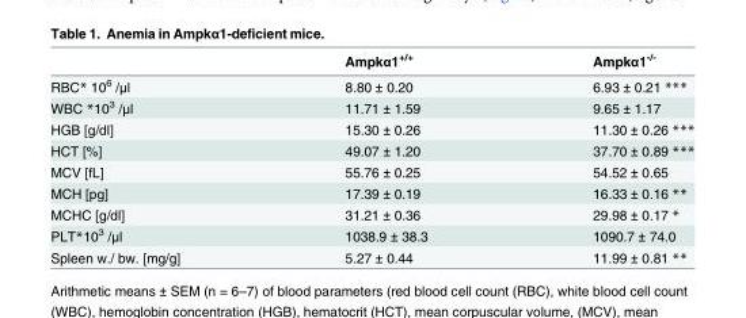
<table><thead><tr><td></td><td>Ampkα1<sup>+/+</sup></td><td>Ampkα1<sup>-/-</sup></td></tr></thead><tbody><tr><td>RBC* 10<sup>6</sup> /μl</td><td>8.80 ± 0.20</td><td>6.93 ± 0.21 ***</td></tr><tr><td>WBC *10<sup>3</sup> /μl</td><td>11.71 ± 1.59</td><td>9.65 ± 1.17</td></tr><tr><td>HGB [g/dl]</td><td>15.30 ± 0.26</td><td>11.30 ± 0.26 ***</td></tr><tr><td>HCT [%]</td><td>49.07 ± 1.20</td><td>37.70 ± 0.89 ***</td></tr><tr><td>MCV [fL]</td><td>55.76 ± 0.25</td><td>54.52 ± 0.65</td></tr><tr><td>MCH [pg]</td><td>17.39 ± 0.19</td><td>16.33 ± 0.16 **</td></tr><tr><td>MCHC [g/dl]</td><td>31.21 ± 0.36</td><td>29.98 ± 0.17 *</td></tr><tr><td>PLT*10<sup>3</sup> /μl</td><td>1038.9 ± 38.3</td><td>1090.7 ± 74.0</td></tr><tr><td>Spleen w./ bw. [mg/g]</td><td>5.27 ± 0.44</td><td>11.99 ± 0.81 **</td></tr></tbody></table>